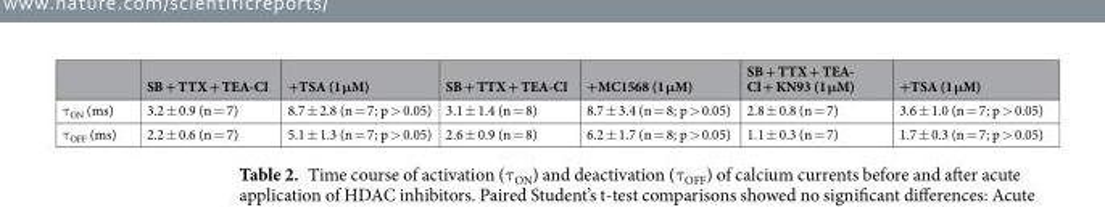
<table><thead><tr><td></td><td>SB + TTX + TEA-Cl</td><td>+TSA (1 μM)</td><td>SB + TTX + TEA-Cl</td><td>+MC1568 (1 μM)</td><td>SB + TTX + TEA- Cl + KN93 (1 μM)</td><td>+TSA (1 μM)</td></tr></thead><tbody><tr><td>τ<sub>ON</sub> (ms)</td><td>3.2 ± 0.9 (n = 7)</td><td>8.7 ± 2.8 (n = 7; p &gt; 0.05)</td><td>3.1 ± 1.4 (n = 8)</td><td>8.7 ± 3.4 (n = 8; p &gt; 0.05)</td><td>2.8 ± 0.8 (n = 7)</td><td>3.6 ± 1.0 (n = 7; p &gt; 0.05)</td></tr><tr><td>τ<sub>OFF</sub> (ms)</td><td>2.2 ± 0.6 (n = 7)</td><td>5.1 ± 1.3 (n = 7; p &gt; 0.05)</td><td>2.6 ± 0.9 (n = 8)</td><td>6.2 ± 1.7 (n = 8; p &gt; 0.05)</td><td>1.1 ± 0.3 (n = 7)</td><td>1.7 ± 0.3 (n = 7; p &gt; 0.05)</td></tr></tbody></table>